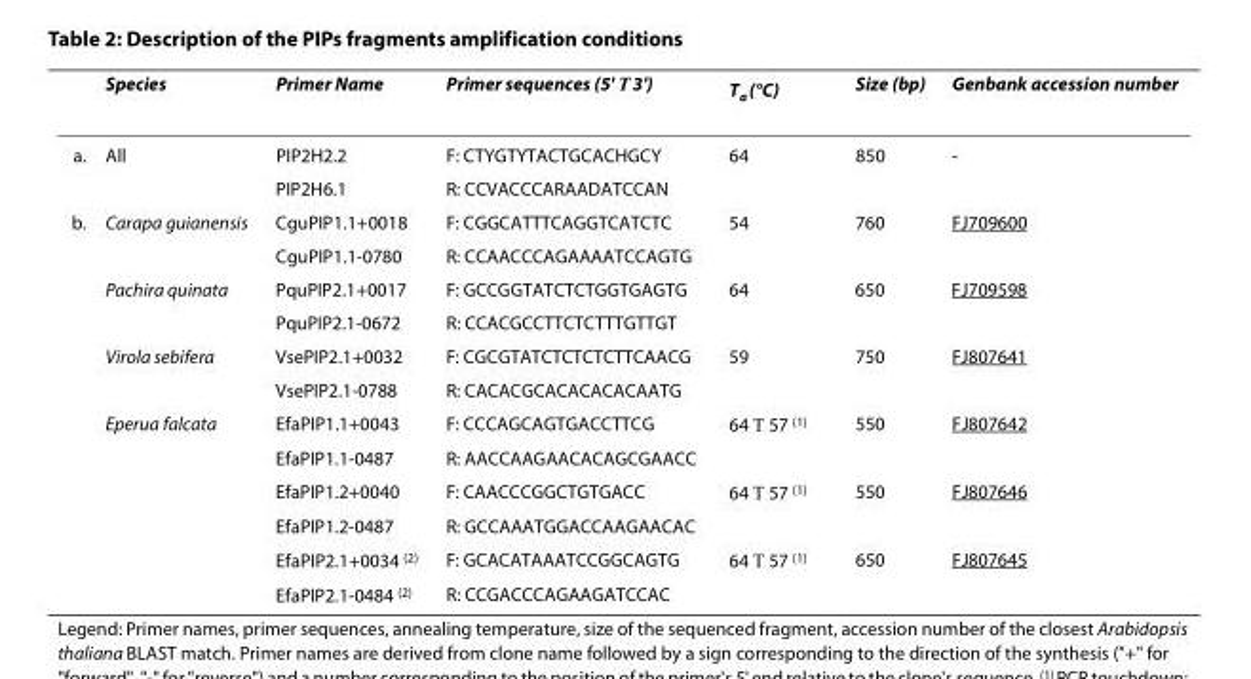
<table><thead><tr><td></td><td>Species</td><td>Primer Name</td><td>Primer sequences (5&#x27; → 3&#x27;)</td><td>T<sub>a</sub> (°C)</td><td>Size (bp)</td><td>Genbank accession number</td></tr></thead><tbody><tr><td rowspan="2">a.</td><td>All</td><td>PIP2H2.2</td><td>F: CTYGTYTACTGCACHGCY</td><td>64</td><td>850</td><td>-</td></tr><tr><td></td><td>PIP2H6.1</td><td>R: CCVACCCARAADATCCAN</td><td></td><td></td><td></td></tr><tr><td rowspan="12">b.</td><td>Carapa guianensis</td><td>CguPIP1.1+0018</td><td>F: CGGCATTTCAGGTCATCTC</td><td>54</td><td>760</td><td>FJ709600</td></tr><tr><td></td><td>CguPIP1.1-0780</td><td>R: CCAACCCAGAAAATCCAGTG</td><td></td><td></td><td></td></tr><tr><td>Pachira quinata</td><td>PquPIP2.1+0017</td><td>F: GCCGGTATCTCTGGTGAGTG</td><td>64</td><td>650</td><td>FJ709598</td></tr><tr><td></td><td>PquPIP2.1-0672</td><td>R: CCACGCCTTCTCTTTGTTGT</td><td></td><td></td><td></td></tr><tr><td>Virola sebifera</td><td>VsePIP2.1+0032</td><td>F: CGCGTATCTCTCTCTTCAACG</td><td>59</td><td>750</td><td>FJ807641</td></tr><tr><td></td><td>VsePIP2.1-0788</td><td>R: CACACGCACACACACAATG</td><td></td><td></td><td></td></tr><tr><td>Eperua falcata</td><td>EfaPIP1.1+0043</td><td>F: CCCAGCAGTGACCTTCG</td><td>64 → 57 <sup>(1)</sup></td><td>550</td><td>FJ807642</td></tr><tr><td></td><td>EfaPIP1.1-0487</td><td>R: AACCAAGAACACAGCGAACC</td><td></td><td></td><td></td></tr><tr><td></td><td>EfaPIP1.2+0040</td><td>F: CAACCCGGCTGTGACC</td><td>64 → 57 <sup>(1)</sup></td><td>550</td><td>FJ807646</td></tr><tr><td></td><td>EfaPIP1.2-0487</td><td>R: GCCAAATGGACCAAGAACAC</td><td></td><td></td><td></td></tr><tr><td></td><td>EfaPIP2.1+0034 <sup>(2)</sup></td><td>F: GCACATAAATCCGGCAGTG</td><td>64 → 57 <sup>(1)</sup></td><td>650</td><td>FJ807645</td></tr><tr><td></td><td>EfaPIP2.1-0484 <sup>(2)</sup></td><td>R: CCGACCCAGAAGATCCAC</td><td></td><td></td><td></td></tr></tbody></table>